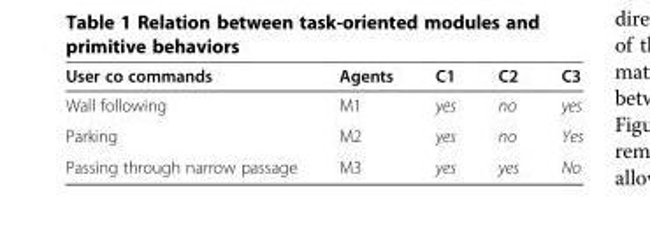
<table><thead><tr><td>User co commands</td><td>Agents</td><td>C1</td><td>C2</td><td>C3</td></tr></thead><tbody><tr><td>Wall following</td><td>M1</td><td>yes</td><td>no</td><td>yes</td></tr><tr><td>Parking</td><td>M2</td><td>yes</td><td>no</td><td>Yes</td></tr><tr><td>Passing through narrow passage</td><td>M3</td><td>yes</td><td>yes</td><td>No</td></tr></tbody></table>